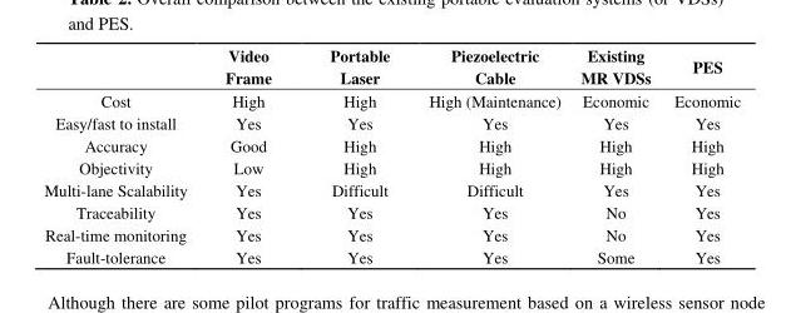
<table><thead><tr><td></td><td>Video Frame</td><td>Portable Laser</td><td>Piezoelectric Cable</td><td>Existing MR VDSs</td><td>PES</td></tr></thead><tbody><tr><td>Cost</td><td>High</td><td>High</td><td>High (Maintenance)</td><td>Economic</td><td>Economic</td></tr><tr><td>Easy/fast to install</td><td>Yes</td><td>Yes</td><td>Yes</td><td>Yes</td><td>Yes</td></tr><tr><td>Accuracy</td><td>Good</td><td>High</td><td>High</td><td>High</td><td>High</td></tr><tr><td>Objectivity</td><td>Low</td><td>High</td><td>High</td><td>High</td><td>High</td></tr><tr><td>Multi-lane Scalability</td><td>Yes</td><td>Difficult</td><td>Difficult</td><td>Yes</td><td>Yes</td></tr><tr><td>Traceability</td><td>Yes</td><td>Yes</td><td>Yes</td><td>No</td><td>Yes</td></tr><tr><td>Real-time monitoring</td><td>Yes</td><td>Yes</td><td>Yes</td><td>No</td><td>Yes</td></tr><tr><td>Fault-tolerance</td><td>Yes</td><td>Yes</td><td>Yes</td><td>Some</td><td>Yes</td></tr></tbody></table>